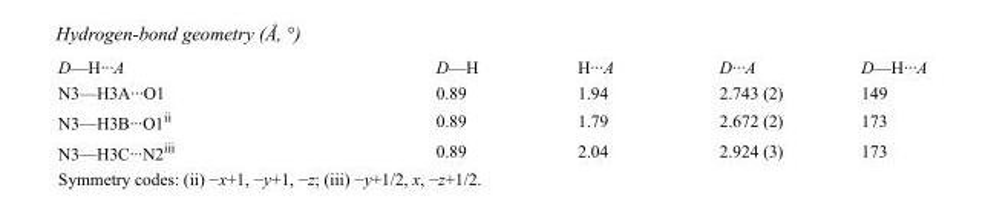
<table><tbody><tr><td>D—H···A</td><td>D—H</td><td>H···A</td><td>D···A</td><td>D—H···A</td></tr><tr><td>N3—H3A···O1</td><td>0.89</td><td>1.94</td><td>2.743 (2)</td><td>149</td></tr><tr><td>N3—H3B···O1<sup>ii</sup></td><td>0.89</td><td>1.79</td><td>2.672 (2)</td><td>173</td></tr><tr><td>N3—H3C···N2<sup>iii</sup></td><td>0.89</td><td>2.04</td><td>2.924 (3)</td><td>173</td></tr></tbody></table>